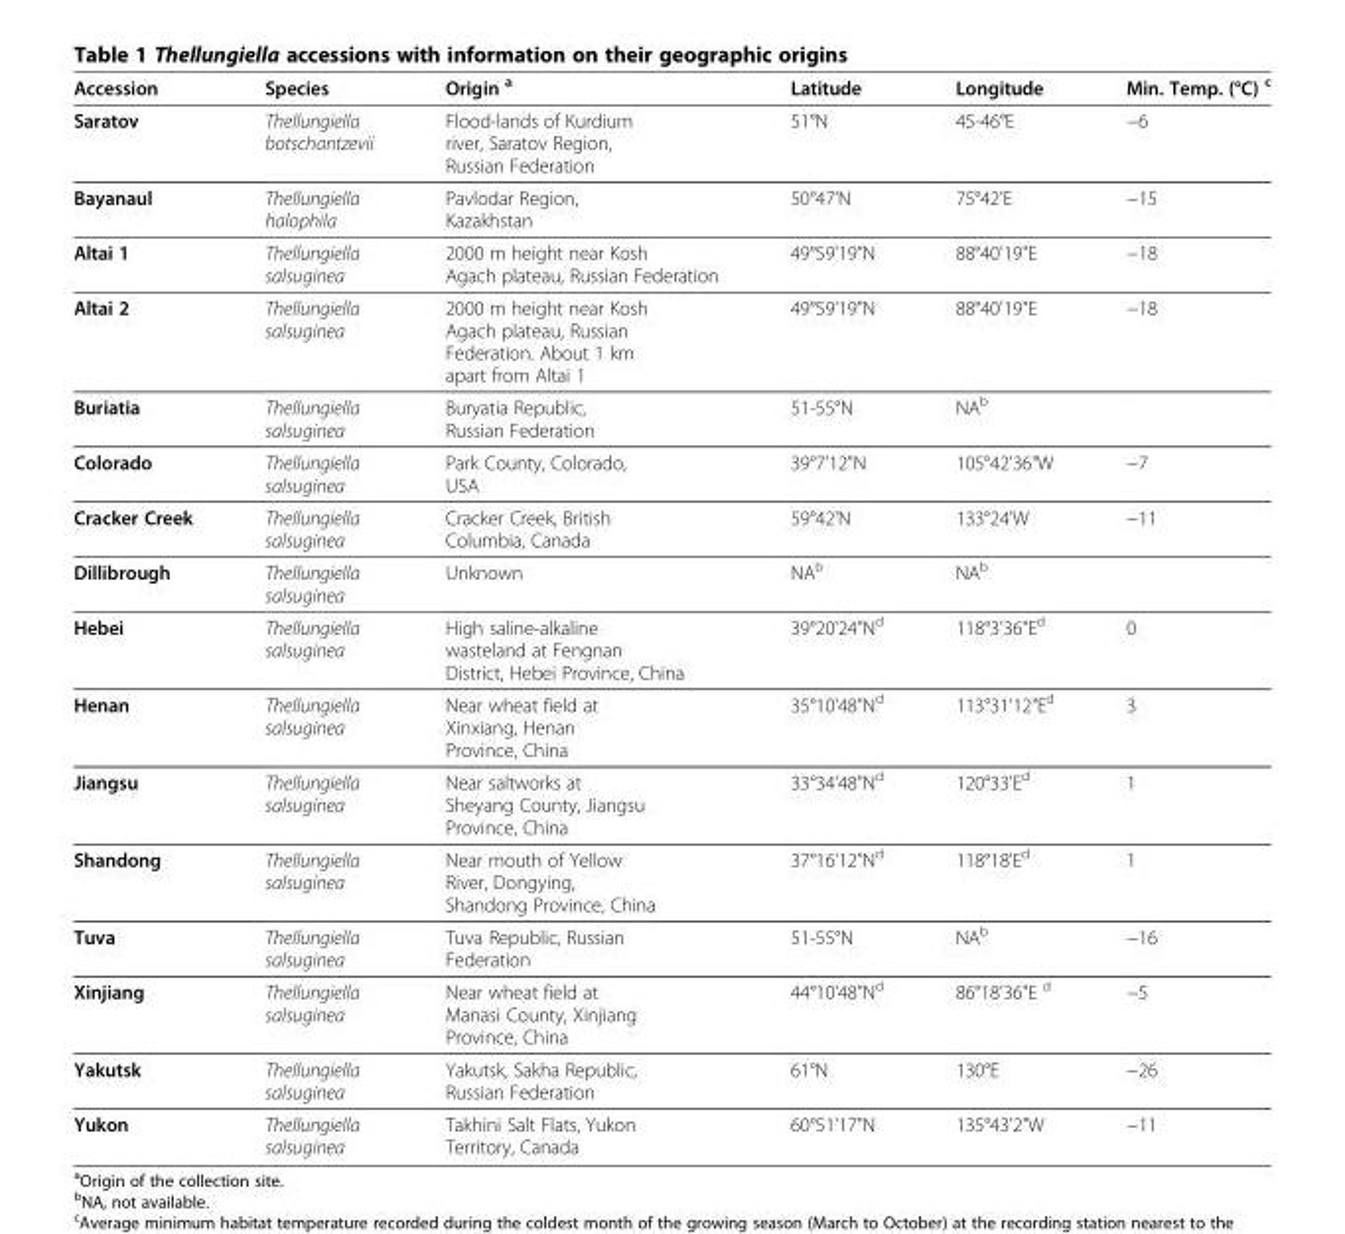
<table><thead><tr><td>Accession</td><td>Species</td><td>Origin <sup>a</sup></td><td>Latitude</td><td>Longitude</td><td>Min. Temp. (°C) <sup>c</sup></td></tr></thead><tbody><tr><td>Saratov</td><td>Thellungiella botschantzevii</td><td>Flood-lands of Kurdium river, Saratov Region, Russian Federation</td><td>51°N</td><td>45-46°E</td><td>−6</td></tr><tr><td>Bayanaul</td><td>Thellungiella halophila</td><td>Pavlodar Region, Kazakhstan</td><td>50°47&#x27;N</td><td>75°42&#x27;E</td><td>−15</td></tr><tr><td>Altai 1</td><td>Thellungiella salsuginea</td><td>2000 m height near Kosh Agach plateau, Russian Federation</td><td>49°59&#x27;19&quot;N</td><td>88°40&#x27;19&quot;E</td><td>−18</td></tr><tr><td>Altai 2</td><td>Thellungiella salsuginea</td><td>2000 m height near Kosh Agach plateau, Russian Federation. About 1 km apart from Altai 1</td><td>49°59&#x27;19&quot;N</td><td>88°40&#x27;19&quot;E</td><td>−18</td></tr><tr><td>Buriatia</td><td>Thellungiella salsuginea</td><td>Buryatia Republic, Russian Federation</td><td>51-55°N</td><td>NA<sup>b</sup></td><td></td></tr><tr><td>Colorado</td><td>Thellungiella salsuginea</td><td>Park County, Colorado, USA</td><td>39°7&#x27;12&quot;N</td><td>105°42&#x27;36&quot;W</td><td>−7</td></tr><tr><td>Cracker Creek</td><td>Thellungiella salsuginea</td><td>Cracker Creek, British Columbia, Canada</td><td>59°42&#x27;N</td><td>133°24&#x27;W</td><td>−11</td></tr><tr><td>Dillibrough</td><td>Thellungiella salsuginea</td><td>Unknown</td><td>NA<sup>b</sup></td><td>NA<sup>b</sup></td><td></td></tr><tr><td>Hebei</td><td>Thellungiella salsuginea</td><td>High saline-alkaline wasteland at Fengnan District, Hebei Province, China</td><td>39°20&#x27;24&quot;N<sup>d</sup></td><td>118°3&#x27;36&quot;E<sup>d</sup></td><td>0</td></tr><tr><td>Henan</td><td>Thellungiella salsuginea</td><td>Near wheat field at Xinxiang, Henan Province, China</td><td>35°10&#x27;48&quot;N<sup>d</sup></td><td>113°31&#x27;12&quot;E<sup>d</sup></td><td>3</td></tr><tr><td>Jiangsu</td><td>Thellungiella salsuginea</td><td>Near saltworks at Sheyang County, Jiangsu Province, China</td><td>33°34&#x27;48&quot;N<sup>d</sup></td><td>120°33&#x27;E<sup>d</sup></td><td>1</td></tr><tr><td>Shandong</td><td>Thellungiella salsuginea</td><td>Near mouth of Yellow River, Dongying, Shandong Province, China</td><td>37°16&#x27;12&quot;N<sup>d</sup></td><td>118°18&#x27;E<sup>d</sup></td><td>1</td></tr><tr><td>Tuva</td><td>Thellungiella salsuginea</td><td>Tuva Republic, Russian Federation</td><td>51-55°N</td><td>NA<sup>b</sup></td><td>−16</td></tr><tr><td>Xinjiang</td><td>Thellungiella salsuginea</td><td>Near wheat field at Manasi County, Xinjiang Province, China</td><td>44°10&#x27;48&quot;N<sup>d</sup></td><td>86°18&#x27;36&quot;E <sup>d</sup></td><td>−5</td></tr><tr><td>Yakutsk</td><td>Thellungiella salsuginea</td><td>Yakutsk, Sakha Republic, Russian Federation</td><td>61°N</td><td>130°E</td><td>−26</td></tr><tr><td>Yukon</td><td>Thellungiella salsuginea</td><td>Takhini Salt Flats, Yukon Territory, Canada</td><td>60°51&#x27;17&quot;N</td><td>135°43&#x27;2&quot;W</td><td>−11</td></tr></tbody></table>